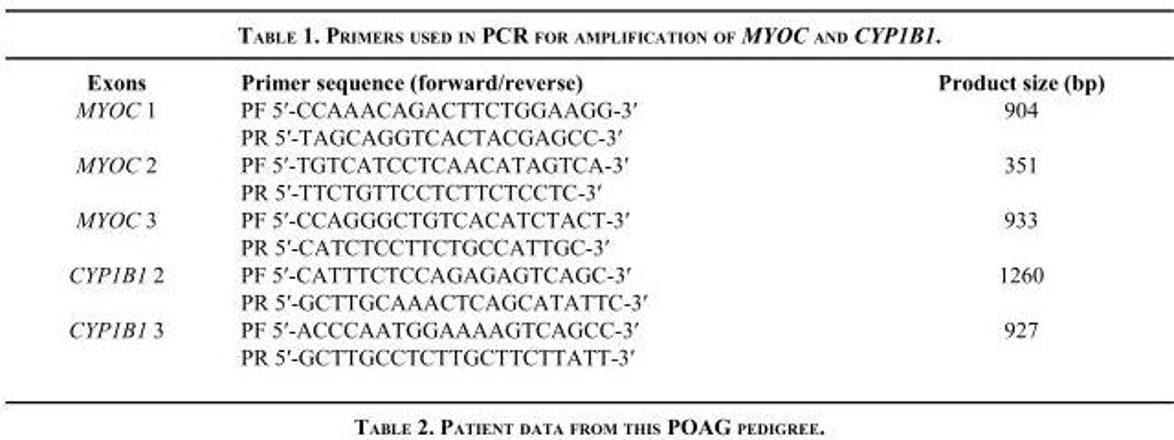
<table><thead><tr><td>Exons</td><td>Primer sequence (forward/reverse)</td><td>Product size (bp)</td></tr></thead><tbody><tr><td rowspan="2">MYOC 1</td><td>PF 5′-CCAAACAGACTTCTGGAAGG-3′</td><td>904</td></tr><tr><td>PR 5′-TAGCAGGTCACTACGAGCC-3′</td><td></td></tr><tr><td rowspan="2">MYOC 2</td><td>PF 5′-TGTCATCCTCAACATAGTCA-3′</td><td>351</td></tr><tr><td>PR 5′-TTCTGTTCCTCTTCTCCTC-3′</td><td></td></tr><tr><td rowspan="2">MYOC 3</td><td>PF 5′-CCAGGGCTGTCACATCTACT-3′</td><td>933</td></tr><tr><td>PR 5′-CATCTCCTTCTGCCATTGC-3′</td><td></td></tr><tr><td rowspan="2">CYP1B1 2</td><td>PF 5′-CATTTCTCCAGAGAGTCAGC-3′</td><td>1260</td></tr><tr><td>PR 5′-GCTTGCAAACTCAGCATATTC-3′</td><td></td></tr><tr><td rowspan="2">CYP1B1 3</td><td>PF 5′-ACCCAATGGAAAAGTCAGCC-3′</td><td>927</td></tr><tr><td>PR 5′-GCTTGCCTCTTGCTTCTTATT-3′</td><td></td></tr></tbody></table>